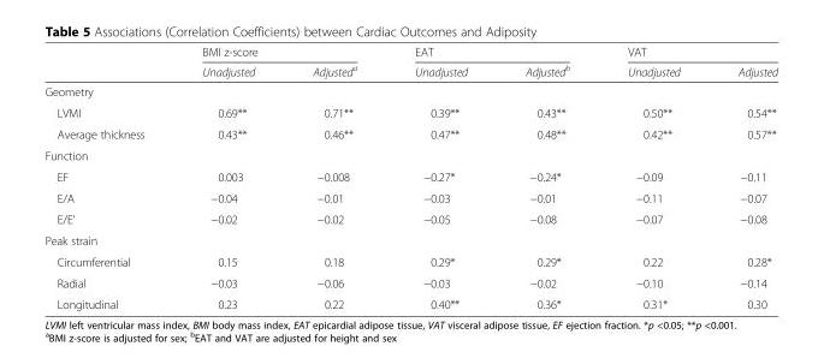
<table><thead><tr><td rowspan="2"></td><td colspan="2">BMI z-score</td><td colspan="2">EAT</td><td colspan="2">VAT</td></tr><tr><td>Unadjusted</td><td>Adjusted<sup>a</sup></td><td>Unadjusted</td><td>Adjusted<sup>b</sup></td><td>Unadjusted</td><td>Adjusted</td></tr></thead><tbody><tr><td colspan="7">Geometry</td></tr><tr><td>LVMI</td><td>0.69**</td><td>0.71**</td><td>0.39**</td><td>0.43**</td><td>0.50**</td><td>0.54**</td></tr><tr><td>Average thickness</td><td>0.43**</td><td>0.46**</td><td>0.47**</td><td>0.48**</td><td>0.42**</td><td>0.57**</td></tr><tr><td colspan="7">Function</td></tr><tr><td>EF</td><td>0.003</td><td>−0.008</td><td>−0.27*</td><td>−0.24*</td><td>−0.09</td><td>−0.11</td></tr><tr><td>E/A</td><td>−0.04</td><td>−0.01</td><td>−0.03</td><td>−0.01</td><td>−0.11</td><td>−0.07</td></tr><tr><td>E/E’</td><td>−0.02</td><td>−0.02</td><td>−0.05</td><td>−0.08</td><td>−0.07</td><td>−0.08</td></tr><tr><td colspan="7">Peak strain</td></tr><tr><td>Circumferential</td><td>0.15</td><td>0.18</td><td>0.29*</td><td>0.29*</td><td>0.22</td><td>0.28*</td></tr><tr><td>Radial</td><td>−0.03</td><td>−0.06</td><td>−0.03</td><td>−0.02</td><td>−0.10</td><td>−0.14</td></tr><tr><td>Longitudinal</td><td>0.23</td><td>0.22</td><td>0.40**</td><td>0.36*</td><td>0.31*</td><td>0.30</td></tr></tbody></table>